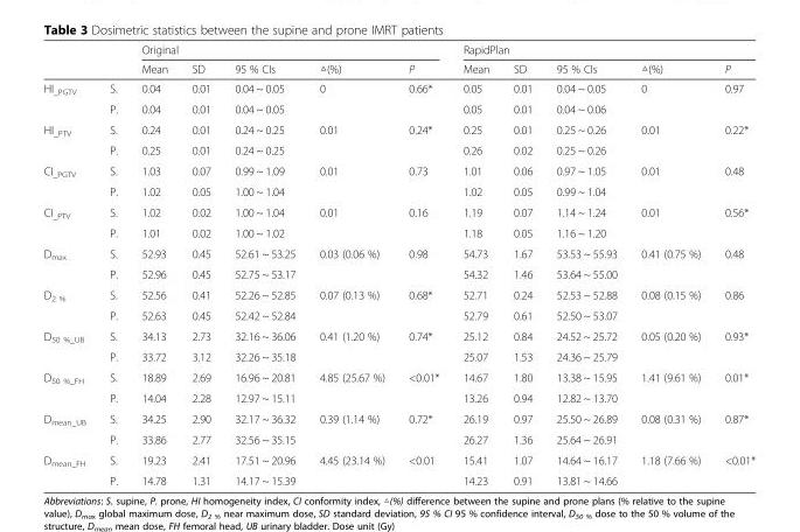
<table><thead><tr><td rowspan="2"></td><td rowspan="2"></td><td colspan="5">Original</td><td colspan="5">RapidPlan</td></tr><tr><td>Mean</td><td>SD</td><td>95 % CIs</td><td>△(%)</td><td>P</td><td>Mean</td><td>SD</td><td>95 % CIs</td><td>△(%)</td><td>P</td></tr></thead><tbody><tr><td rowspan="2">HI_PGTV</td><td>S.</td><td>0.04</td><td>0.01</td><td>0.04 ~ 0.05</td><td rowspan="2">0</td><td rowspan="2">0.66*</td><td>0.05</td><td>0.01</td><td>0.04 ~ 0.05</td><td rowspan="2">0</td><td rowspan="2">0.97</td></tr><tr><td>P.</td><td>0.04</td><td>0.01</td><td>0.04 ~ 0.05</td><td>0.05</td><td>0.01</td><td>0.04 ~ 0.06</td></tr><tr><td rowspan="2">HI_PTV</td><td>S.</td><td>0.24</td><td>0.01</td><td>0.24 ~ 0.25</td><td rowspan="2">0.01</td><td rowspan="2">0.24*</td><td>0.25</td><td>0.01</td><td>0.25 ~ 0.26</td><td rowspan="2">0.01</td><td rowspan="2">0.22*</td></tr><tr><td>P.</td><td>0.25</td><td>0.01</td><td>0.24 ~ 0.25</td><td>0.26</td><td>0.02</td><td>0.25 ~ 0.26</td></tr><tr><td rowspan="2">CI_PGTV</td><td>S.</td><td>1.03</td><td>0.07</td><td>0.99 ~ 1.09</td><td rowspan="2">0.01</td><td rowspan="2">0.73</td><td>1.01</td><td>0.06</td><td>0.97 ~ 1.05</td><td rowspan="2">0.01</td><td rowspan="2">0.48</td></tr><tr><td>P.</td><td>1.02</td><td>0.05</td><td>1.00 ~ 1.04</td><td>1.02</td><td>0.05</td><td>0.99 ~ 1.04</td></tr><tr><td rowspan="2">CI_PTV</td><td>S.</td><td>1.02</td><td>0.02</td><td>1.00 ~ 1.04</td><td rowspan="2">0.01</td><td rowspan="2">0.16</td><td>1.19</td><td>0.07</td><td>1.14 ~ 1.24</td><td rowspan="2">0.01</td><td rowspan="2">0.56*</td></tr><tr><td>P.</td><td>1.01</td><td>0.02</td><td>1.00 ~ 1.02</td><td>1.18</td><td>0.05</td><td>1.16 ~ 1.20</td></tr><tr><td rowspan="2">D<sub>max</sub></td><td>S.</td><td>52.93</td><td>0.45</td><td>52.61 ~ 53.25</td><td rowspan="2">0.03 (0.06 %)</td><td rowspan="2">0.98</td><td>54.73</td><td>1.67</td><td>53.53 ~ 55.93</td><td rowspan="2">0.41 (0.75 %)</td><td rowspan="2">0.48</td></tr><tr><td>P.</td><td>52.96</td><td>0.45</td><td>52.75 ~ 53.17</td><td>54.32</td><td>1.46</td><td>53.64 ~ 55.00</td></tr><tr><td rowspan="2">D<sub>2 %</sub></td><td>S.</td><td>52.56</td><td>0.41</td><td>52.26 ~ 52.85</td><td rowspan="2">0.07 (0.13 %)</td><td rowspan="2">0.68*</td><td>52.71</td><td>0.24</td><td>52.53 ~ 52.88</td><td rowspan="2">0.08 (0.15 %)</td><td rowspan="2">0.86</td></tr><tr><td>P.</td><td>52.63</td><td>0.45</td><td>52.42 ~ 52.84</td><td>52.79</td><td>0.61</td><td>52.50 ~ 53.07</td></tr><tr><td rowspan="2">D<sub>50 %_UB</sub></td><td>S.</td><td>34.13</td><td>2.73</td><td>32.16 ~ 36.06</td><td rowspan="2">0.41 (1.20 %)</td><td rowspan="2">0.74*</td><td>25.12</td><td>0.84</td><td>24.52 ~ 25.72</td><td rowspan="2">0.05 (0.20 %)</td><td rowspan="2">0.93*</td></tr><tr><td>P.</td><td>33.72</td><td>3.12</td><td>32.26 ~ 35.18</td><td>25.07</td><td>1.53</td><td>24.36 ~ 25.79</td></tr><tr><td rowspan="2">D<sub>50 %_FH</sub></td><td>S.</td><td>18.89</td><td>2.69</td><td>16.96 ~ 20.81</td><td rowspan="2">4.85 (25.67 %)</td><td rowspan="2">&lt;0.01*</td><td>14.67</td><td>1.80</td><td>13.38 ~ 15.95</td><td rowspan="2">1.41 (9.61 %)</td><td rowspan="2">0.01*</td></tr><tr><td>P.</td><td>14.04</td><td>2.28</td><td>12.97 ~ 15.11</td><td>13.26</td><td>0.94</td><td>12.82 ~ 13.70</td></tr><tr><td rowspan="2">D<sub>mean_UB</sub></td><td>S.</td><td>34.25</td><td>2.90</td><td>32.17 ~ 36.32</td><td rowspan="2">0.39 (1.14 %)</td><td rowspan="2">0.72*</td><td>26.19</td><td>0.97</td><td>25.50 ~ 26.89</td><td rowspan="2">0.08 (0.31 %)</td><td rowspan="2">0.87*</td></tr><tr><td>P.</td><td>33.86</td><td>2.77</td><td>32.56 ~ 35.15</td><td>26.27</td><td>1.36</td><td>25.64 ~ 26.91</td></tr><tr><td rowspan="2">D<sub>mean_FH</sub></td><td>S.</td><td>19.23</td><td>2.41</td><td>17.51 ~ 20.96</td><td rowspan="2">4.45 (23.14 %)</td><td rowspan="2">&lt;0.01</td><td>15.41</td><td>1.07</td><td>14.64 ~ 16.17</td><td rowspan="2">1.18 (7.66 %)</td><td rowspan="2">&lt;0.01*</td></tr><tr><td>P.</td><td>14.78</td><td>1.31</td><td>14.17 ~ 15.39</td><td>14.23</td><td>0.91</td><td>13.81 ~ 14.66</td></tr></tbody></table>